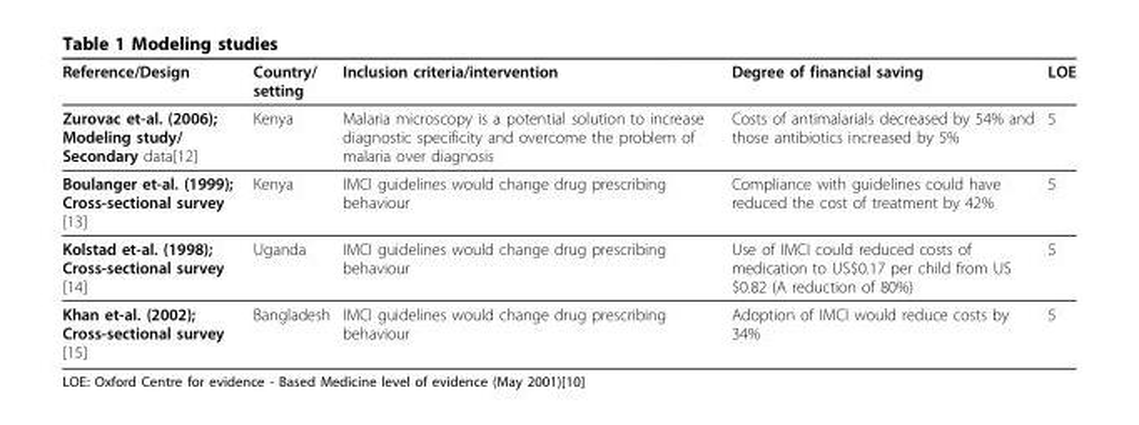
<table><thead><tr><td>Reference/Design</td><td>Country/ setting</td><td>Inclusion criteria/intervention</td><td>Degree of financial saving</td><td>LOE</td></tr></thead><tbody><tr><td>Zurovac et-al. (2006); Modeling study/ Secondary data[12]</td><td>Kenya</td><td>Malaria microscopy is a potential solution to increase diagnostic specificity and overcome the problem of malaria over diagnosis</td><td>Costs of antimalarials decreased by 54% and those antibiotics increased by 5%</td><td>5</td></tr><tr><td>Boulanger et-al. (1999); Cross-sectional survey [13]</td><td>Kenya</td><td>IMCI guidelines would change drug prescribing behaviour</td><td>Compliance with guidelines could have reduced the cost of treatment by 42%</td><td>5</td></tr><tr><td>Kolstad et-al. (1998); Cross-sectional survey [14]</td><td>Uganda</td><td>IMCI guidelines would change drug prescribing behaviour</td><td>Use of IMCI could reduced costs of medication to US$0.17 per child from US $0.82 (A reduction of 80%)</td><td>5</td></tr><tr><td>Khan et-al. (2002); Cross-sectional survey [15]</td><td>Bangladesh</td><td>IMCI guidelines would change drug prescribing behaviour</td><td>Adoption of IMCI would reduce costs by 34%</td><td>5</td></tr></tbody></table>